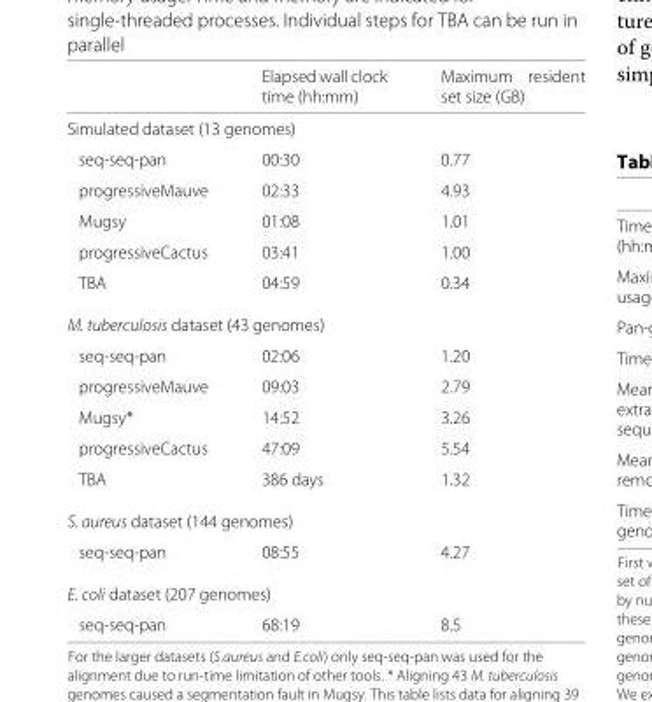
<table><thead><tr><td></td><td>Elapsed wall clock time (hh:mm)</td><td>Maximum resident set size (GB)</td></tr></thead><tbody><tr><td colspan="3">Simulated dataset (13 genomes)</td></tr><tr><td>seq-seq-pan</td><td>00:30</td><td>0.77</td></tr><tr><td>progressiveMauve</td><td>02:33</td><td>4.93</td></tr><tr><td>Mugsy</td><td>01:08</td><td>1.01</td></tr><tr><td>progressiveCactus</td><td>03:41</td><td>1.00</td></tr><tr><td>TBA</td><td>04:59</td><td>0.34</td></tr><tr><td colspan="3">M. tuberculosis dataset (43 genomes)</td></tr><tr><td>seq-seq-pan</td><td>02:06</td><td>1.20</td></tr><tr><td>progressiveMauve</td><td>09:03</td><td>2.79</td></tr><tr><td>Mugsy*</td><td>14:52</td><td>3.26</td></tr><tr><td>progressiveCactus</td><td>47:09</td><td>5.54</td></tr><tr><td>TBA</td><td>386 days</td><td>1.32</td></tr><tr><td colspan="3">S. aureus dataset (144 genomes)</td></tr><tr><td>seq-seq-pan</td><td>08:55</td><td>4.27</td></tr><tr><td colspan="3">E. coli dataset (207 genomes)</td></tr><tr><td>seq-seq-pan</td><td>68:19</td><td>8.5</td></tr></tbody></table>